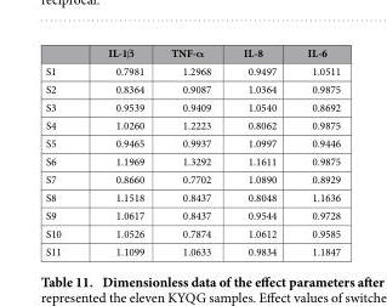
<table><thead><tr><td></td><td>IL-1β</td><td>TNF-α</td><td>IL-8</td><td>IL-6</td></tr></thead><tbody><tr><td>S1</td><td>0.7981</td><td>1.2968</td><td>0.9497</td><td>1.0511</td></tr><tr><td>S2</td><td>0.8364</td><td>0.9087</td><td>1.0364</td><td>0.9875</td></tr><tr><td>S3</td><td>0.9539</td><td>0.9409</td><td>1.0540</td><td>0.8692</td></tr><tr><td>S4</td><td>1.0260</td><td>1.2223</td><td>0.8062</td><td>0.9875</td></tr><tr><td>S5</td><td>0.9465</td><td>0.9937</td><td>1.0997</td><td>0.9446</td></tr><tr><td>S6</td><td>1.1969</td><td>1.3292</td><td>1.1611</td><td>0.9875</td></tr><tr><td>S7</td><td>0.8660</td><td>0.7702</td><td>1.0890</td><td>0.8929</td></tr><tr><td>S8</td><td>1.1518</td><td>0.8437</td><td>0.8048</td><td>1.1636</td></tr><tr><td>S9</td><td>1.0617</td><td>0.8437</td><td>0.9544</td><td>0.9728</td></tr><tr><td>S10</td><td>1.0526</td><td>0.7874</td><td>1.0612</td><td>0.9585</td></tr><tr><td>S11</td><td>1.1099</td><td>1.0633</td><td>0.9834</td><td>1.1847</td></tr></tbody></table>